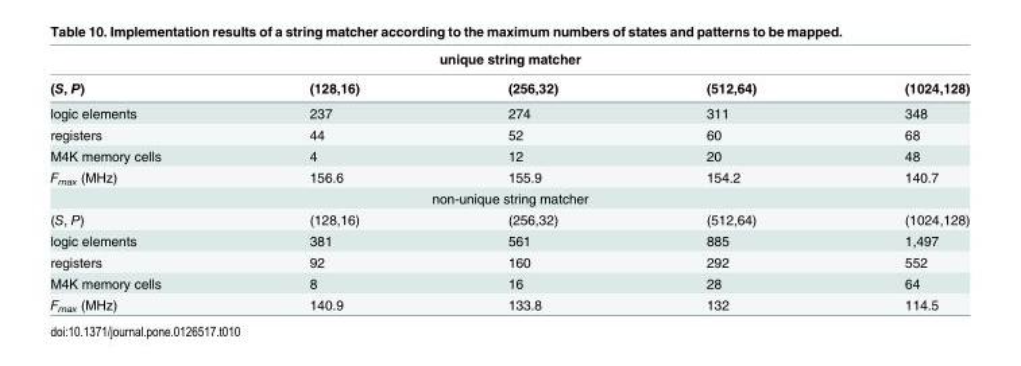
<table><thead><tr><td colspan="5">unique string matcher</td></tr><tr><td>(S, P)</td><td>(128,16)</td><td>(256,32)</td><td>(512,64)</td><td>(1024,128)</td></tr></thead><tbody><tr><td>logic elements</td><td>237</td><td>274</td><td>311</td><td>348</td></tr><tr><td>registers</td><td>44</td><td>52</td><td>60</td><td>68</td></tr><tr><td>M4K memory cells</td><td>4</td><td>12</td><td>20</td><td>48</td></tr><tr><td>F<sub>max</sub> (MHz)</td><td>156.6</td><td>155.9</td><td>154.2</td><td>140.7</td></tr><tr><td colspan="5">non-unique string matcher</td></tr><tr><td>(S, P)</td><td>(128,16)</td><td>(256,32)</td><td>(512,64)</td><td>(1024,128)</td></tr><tr><td>logic elements</td><td>381</td><td>561</td><td>885</td><td>1,497</td></tr><tr><td>registers</td><td>92</td><td>160</td><td>292</td><td>552</td></tr><tr><td>M4K memory cells</td><td>8</td><td>16</td><td>28</td><td>64</td></tr><tr><td>F<sub>max</sub> (MHz)</td><td>140.9</td><td>133.8</td><td>132</td><td>114.5</td></tr></tbody></table>